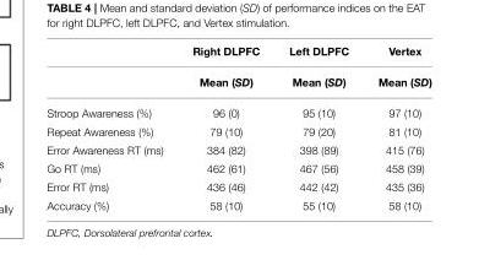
<table><thead><tr><td></td><td>Right DLPFC</td><td>Left DLPFC</td><td>Vertex</td></tr></thead><tbody><tr><td></td><td>Mean (SD)</td><td>Mean (SD)</td><td>Mean (SD)</td></tr><tr><td>Stroop Awareness (%)</td><td>96 (0)</td><td>95 (10)</td><td>97 (10)</td></tr><tr><td>Repeat Awareness (%)</td><td>79 (10)</td><td>79 (20)</td><td>81 (10)</td></tr><tr><td>Error Awareness RT (ms)</td><td>384 (82)</td><td>398 (89)</td><td>415 (76)</td></tr><tr><td>Go RT (ms)</td><td>462 (61)</td><td>467 (56)</td><td>458 (39)</td></tr><tr><td>Error RT (ms)</td><td>436 (46)</td><td>442 (42)</td><td>435 (36)</td></tr><tr><td>Accuracy (%)</td><td>58 (10)</td><td>55 (10)</td><td>58 (10)</td></tr></tbody></table>